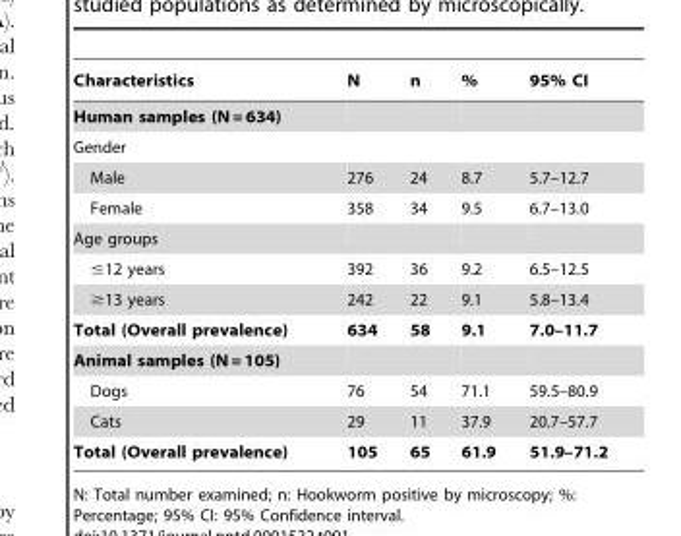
<table><thead><tr><td>Characteristics</td><td>N</td><td>n</td><td>%</td><td>95% CI</td></tr></thead><tbody><tr><td colspan="5">Human samples (N = 634)</td></tr><tr><td colspan="5">Gender</td></tr><tr><td>Male</td><td>276</td><td>24</td><td>8.7</td><td>5.7–12.7</td></tr><tr><td>Female</td><td>358</td><td>34</td><td>9.5</td><td>6.7–13.0</td></tr><tr><td colspan="5">Age groups</td></tr><tr><td>≤12 years</td><td>392</td><td>36</td><td>9.2</td><td>6.5–12.5</td></tr><tr><td>≥13 years</td><td>242</td><td>22</td><td>9.1</td><td>5.8–13.4</td></tr><tr><td>Total (Overall prevalence)</td><td>634</td><td>58</td><td>9.1</td><td>7.0–11.7</td></tr><tr><td colspan="5">Animal samples (N = 105)</td></tr><tr><td>Dogs</td><td>76</td><td>54</td><td>71.1</td><td>59.5–80.9</td></tr><tr><td>Cats</td><td>29</td><td>11</td><td>37.9</td><td>20.7–57.7</td></tr><tr><td>Total (Overall prevalence)</td><td>105</td><td>65</td><td>61.9</td><td>51.9–71.2</td></tr></tbody></table>